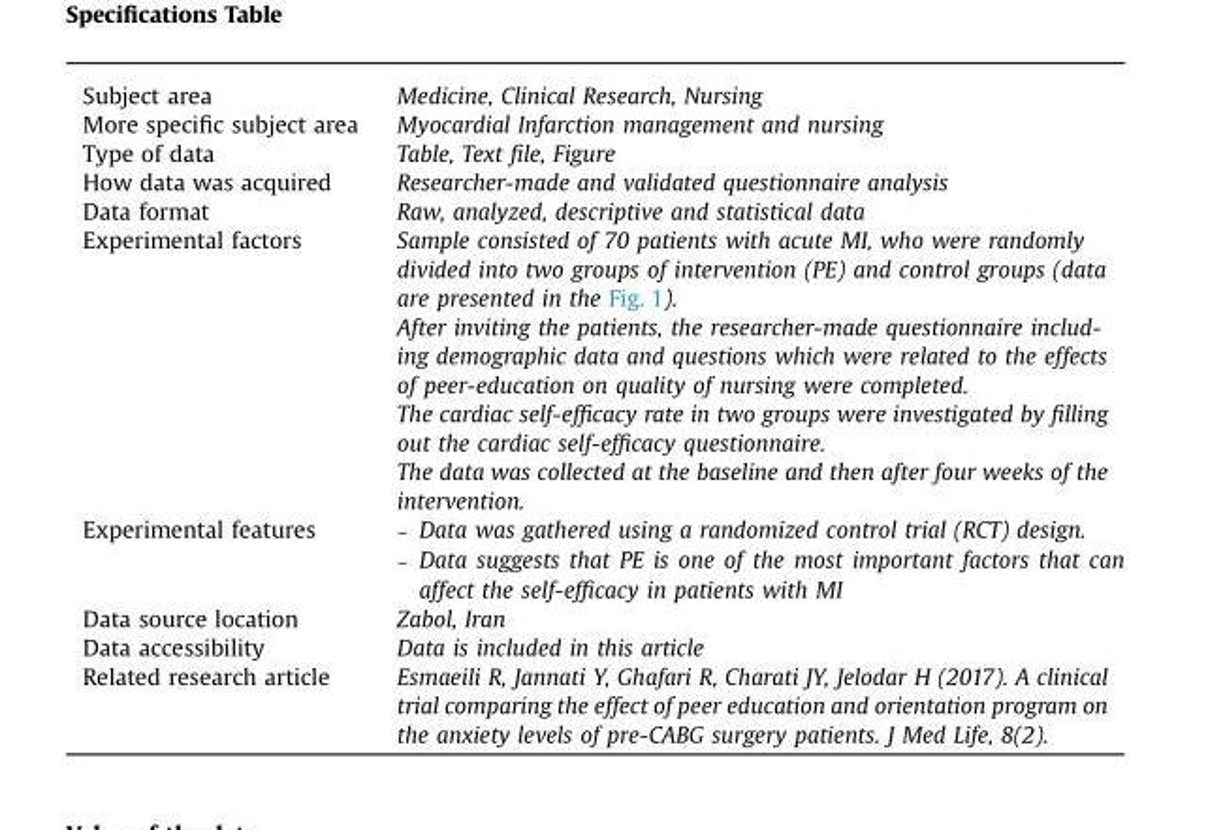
<table><tbody><tr><td>Subject area</td><td>Medicine, Clinical Research, Nursing</td></tr><tr><td>More specific subject area</td><td>Myocardial Infarction management and nursing</td></tr><tr><td>Type of data</td><td>Table, Text file, Figure</td></tr><tr><td>How data was acquired</td><td>Researcher-made and validated questionnaire analysis</td></tr><tr><td>Data format</td><td>Raw, analyzed, descriptive and statistical data</td></tr><tr><td rowspan="4">Experimental factors</td><td>Sample consisted of 70 patients with acute MI, who were randomly divided into two groups of intervention (PE) and control groups (data are presented in the Fig. 1).</td></tr><tr><td>After inviting the patients, the researcher-made questionnaire includ- ing demographic data and questions which were related to the effects of peer-education on quality of nursing were completed.</td></tr><tr><td>The cardiac self-efficacy rate in two groups were investigated by filling out the cardiac self-efficacy questionnaire.</td></tr><tr><td>The data was collected at the baseline and then after four weeks of the intervention.</td></tr><tr><td>Experimental features</td><td>– Data was gathered using a randomized control trial (RCT) design. – Data suggests that PE is one of the most important factors that can affect the self-efficacy in patients with MI</td></tr><tr><td>Data source location</td><td>Zabol, Iran</td></tr><tr><td>Data accessibility</td><td>Data is included in this article</td></tr><tr><td>Related research article</td><td>Esmaeili R, Jannati Y, Ghafari R, Charati JY, Jelodar H (2017). A clinical trial comparing the effect of peer education and orientation program on the anxiety levels of pre-CABG surgery patients. J Med Life, 8(2).</td></tr></tbody></table>